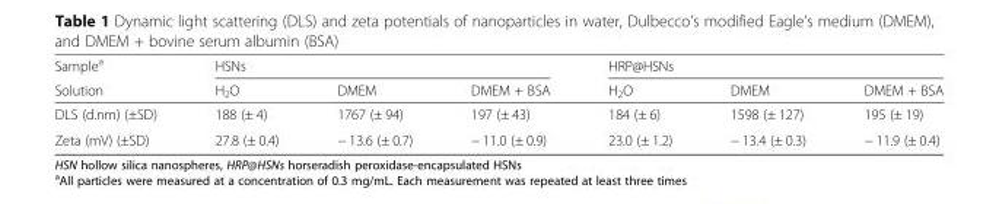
<table><thead><tr><td rowspan="2">Sample<sup>a</sup> Solution</td><td colspan="3">HSNs</td><td colspan="3">HRP@HSNs</td></tr><tr><td>H<sub>2</sub>O</td><td>DMEM</td><td>DMEM + BSA</td><td>H<sub>2</sub>O</td><td>DMEM</td><td>DMEM + BSA</td></tr></thead><tbody><tr><td>DLS (d.nm) (±SD)</td><td>188 (± 4)</td><td>1767 (± 94)</td><td>197 (± 43)</td><td>184 (± 6)</td><td>1598 (± 127)</td><td>195 (± 19)</td></tr><tr><td>Zeta (mV) (±SD)</td><td>27.8 (± 0.4)</td><td>− 13.6 (± 0.7)</td><td>− 11.0 (± 0.9)</td><td>23.0 (± 1.2)</td><td>− 13.4 (± 0.3)</td><td>− 11.9 (± 0.4)</td></tr></tbody></table>